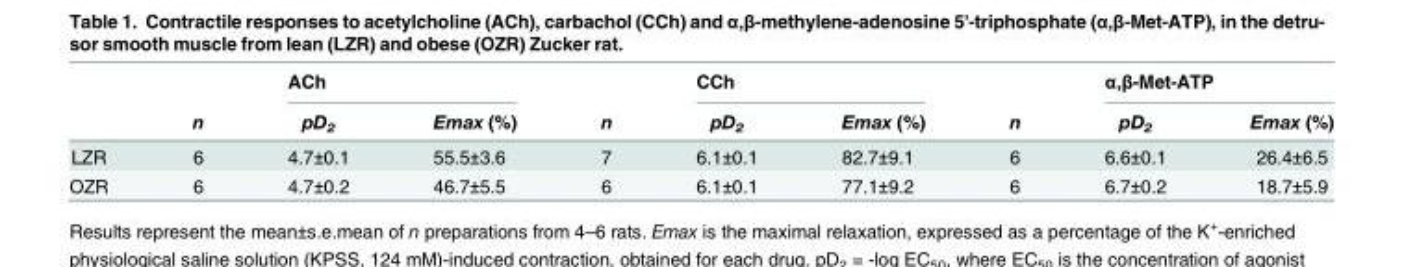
<table><thead><tr><td rowspan="2"></td><td rowspan="2">n</td><td colspan="2">ACh</td><td rowspan="2">n</td><td colspan="2">CCh</td><td rowspan="2">n</td><td colspan="2">α,β-Met-ATP</td></tr><tr><td>pD<sub>2</sub></td><td>Emax (%)</td><td>pD<sub>2</sub></td><td>Emax (%)</td><td>pD<sub>2</sub></td><td>Emax (%)</td></tr></thead><tbody><tr><td>LZR</td><td>6</td><td>4.7±0.1</td><td>55.5±3.6</td><td>7</td><td>6.1±0.1</td><td>82.7±9.1</td><td>6</td><td>6.6±0.1</td><td>26.4±6.5</td></tr><tr><td>OZR</td><td>6</td><td>4.7±0.2</td><td>46.7±5.5</td><td>6</td><td>6.1±0.1</td><td>77.1±9.2</td><td>6</td><td>6.7±0.2</td><td>18.7±5.9</td></tr></tbody></table>